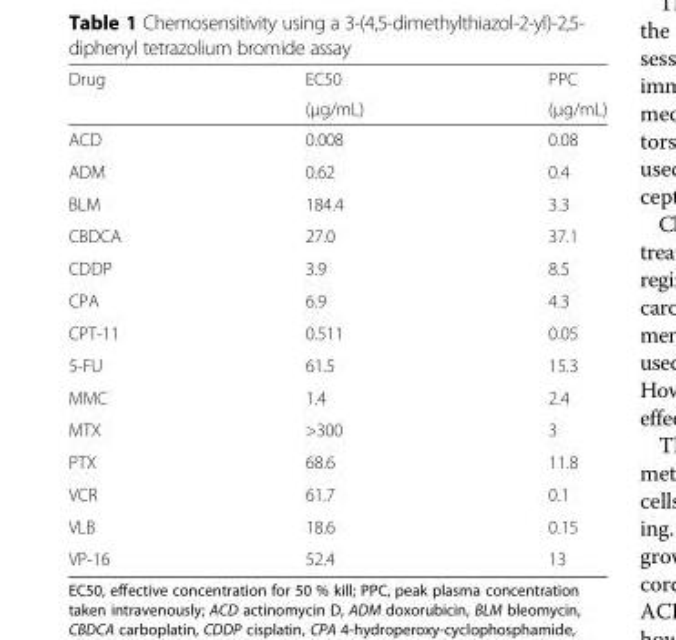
<table><thead><tr><td rowspan="2">Drug</td><td rowspan="2">EC50 (μg/mL)</td><td rowspan="2">PPC (μg/mL)</td></tr><tr></tr></thead><tbody><tr><td>ACD</td><td>0.008</td><td>0.08</td></tr><tr><td>ADM</td><td>0.62</td><td>0.4</td></tr><tr><td>BLM</td><td>184.4</td><td>3.3</td></tr><tr><td>CBDCA</td><td>27.0</td><td>37.1</td></tr><tr><td>CDDP</td><td>3.9</td><td>8.5</td></tr><tr><td>CPA</td><td>6.9</td><td>4.3</td></tr><tr><td>CPT-11</td><td>0.511</td><td>0.05</td></tr><tr><td>5-FU</td><td>61.5</td><td>15.3</td></tr><tr><td>MMC</td><td>1.4</td><td>2.4</td></tr><tr><td>MTX</td><td>&gt;300</td><td>3</td></tr><tr><td>PTX</td><td>68.6</td><td>11.8</td></tr><tr><td>VCR</td><td>61.7</td><td>0.1</td></tr><tr><td>VLB</td><td>18.6</td><td>0.15</td></tr><tr><td>VP-16</td><td>52.4</td><td>13</td></tr></tbody></table>